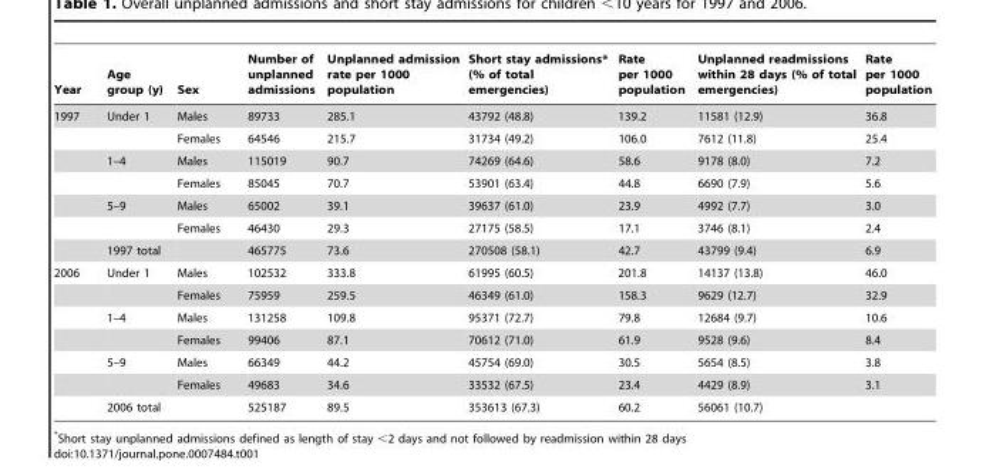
<table><thead><tr><td>Year</td><td>Age group (y)</td><td>Sex</td><td>Number of unplanned admissions</td><td>Unplanned admission rate per 1000 population</td><td>Short stay admissions* (% of total emergencies)</td><td>Rate per 1000 population</td><td>Unplanned readmissions within 28 days (% of total emergencies)</td><td>Rate per 1000 population</td></tr></thead><tbody><tr><td rowspan="7">1997</td><td>Under 1</td><td>Males</td><td>89733</td><td>285.1</td><td>43792 (48.8)</td><td>139.2</td><td>11581 (12.9)</td><td>36.8</td></tr><tr><td></td><td>Females</td><td>64546</td><td>215.7</td><td>31734 (49.2)</td><td>106.0</td><td>7612 (11.8)</td><td>25.4</td></tr><tr><td>1–4</td><td>Males</td><td>115019</td><td>90.7</td><td>74269 (64.6)</td><td>58.6</td><td>9178 (8.0)</td><td>7.2</td></tr><tr><td></td><td>Females</td><td>85045</td><td>70.7</td><td>53901 (63.4)</td><td>44.8</td><td>6690 (7.9)</td><td>5.6</td></tr><tr><td>5–9</td><td>Males</td><td>65002</td><td>39.1</td><td>39637 (61.0)</td><td>23.9</td><td>4992 (7.7)</td><td>3.0</td></tr><tr><td></td><td>Females</td><td>46430</td><td>29.3</td><td>27175 (58.5)</td><td>17.1</td><td>3746 (8.1)</td><td>2.4</td></tr><tr><td>1997 total</td><td></td><td>465775</td><td>73.6</td><td>270508 (58.1)</td><td>42.7</td><td>43799 (9.4)</td><td>6.9</td></tr><tr><td rowspan="7">2006</td><td>Under 1</td><td>Males</td><td>102532</td><td>333.8</td><td>61995 (60.5)</td><td>201.8</td><td>14137 (13.8)</td><td>46.0</td></tr><tr><td></td><td>Females</td><td>75959</td><td>259.5</td><td>46349 (61.0)</td><td>158.3</td><td>9629 (12.7)</td><td>32.9</td></tr><tr><td>1–4</td><td>Males</td><td>131258</td><td>109.8</td><td>95371 (72.7)</td><td>79.8</td><td>12684 (9.7)</td><td>10.6</td></tr><tr><td></td><td>Females</td><td>99406</td><td>87.1</td><td>70612 (71.0)</td><td>61.9</td><td>9528 (9.6)</td><td>8.4</td></tr><tr><td>5–9</td><td>Males</td><td>66349</td><td>44.2</td><td>45754 (69.0)</td><td>30.5</td><td>5654 (8.5)</td><td>3.8</td></tr><tr><td></td><td>Females</td><td>49683</td><td>34.6</td><td>33532 (67.5)</td><td>23.4</td><td>4429 (8.9)</td><td>3.1</td></tr><tr><td>2006 total</td><td></td><td>525187</td><td>89.5</td><td>353613 (67.3)</td><td>60.2</td><td>56061 (10.7)</td><td></td></tr></tbody></table>